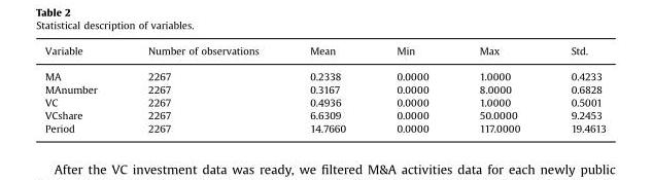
<table><thead><tr><td>Variable</td><td>Number of observations</td><td>Mean</td><td>Min</td><td>Max</td><td>Std.</td></tr></thead><tbody><tr><td>MA</td><td>2267</td><td>0.2338</td><td>0.0000</td><td>1.0000</td><td>0.4233</td></tr><tr><td>MAnumber</td><td>2267</td><td>0.3167</td><td>0.0000</td><td>8.0000</td><td>0.6828</td></tr><tr><td>VC</td><td>2267</td><td>0.4936</td><td>0.0000</td><td>1.0000</td><td>0.5001</td></tr><tr><td>VCshare</td><td>2267</td><td>6.6309</td><td>0.0000</td><td>50.0000</td><td>9.2453</td></tr><tr><td>Period</td><td>2267</td><td>14.7660</td><td>0.0000</td><td>117.0000</td><td>19.4613</td></tr></tbody></table>